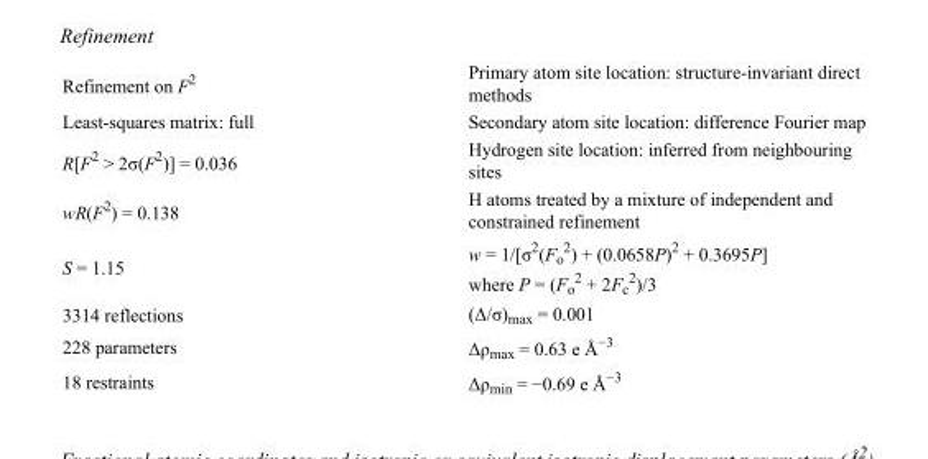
<table><tbody><tr><td>Refinement on F<sup>2</sup></td><td>Primary atom site location: structure-invariant direct methods</td></tr><tr><td>Least-squares matrix: full</td><td>Secondary atom site location: difference Fourier map</td></tr><tr><td>R[F<sup>2</sup> &gt; 2σ(F<sup>2</sup>)] = 0.036</td><td>Hydrogen site location: inferred from neighbouring sites</td></tr><tr><td>wR(F<sup>2</sup>) = 0.138</td><td>H atoms treated by a mixture of independent and constrained refinement</td></tr><tr><td>S = 1.15</td><td>w = 1/[σ<sup>2</sup>(F<sub>o</sub> <sup>2</sup>) + (0.0658P)<sup>2</sup> + 0.3695P] where P = (F<sub>o</sub> <sup>2</sup> + 2F<sub>c</sub> <sup>2</sup>)/3</td></tr><tr><td>3314 reflections</td><td>(Δ/σ)<sub>max</sub> = 0.001</td></tr><tr><td>228 parameters</td><td>Δρ<sub>max</sub> = 0.63 e Å<sup>−3</sup></td></tr><tr><td>18 restraints</td><td>Δρ<sub>min</sub> = −0.69 e Å<sup>−3</sup></td></tr></tbody></table>